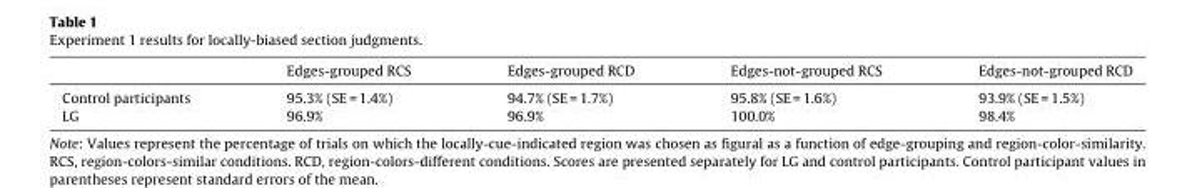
<table><thead><tr><td></td><td>Edges-grouped RCS</td><td>Edges-grouped RCD</td><td>Edges-not-grouped RCS</td><td>Edges-not-grouped RCD</td></tr></thead><tbody><tr><td>Control participants</td><td>95.3% (SE = 1.4%)</td><td>94.7% (SE = 1.7%)</td><td>95.8% (SE = 1.6%)</td><td>93.9% (SE = 1.5%)</td></tr><tr><td>LG</td><td>96.9%</td><td>96.9%</td><td>100.0%</td><td>98.4%</td></tr></tbody></table>